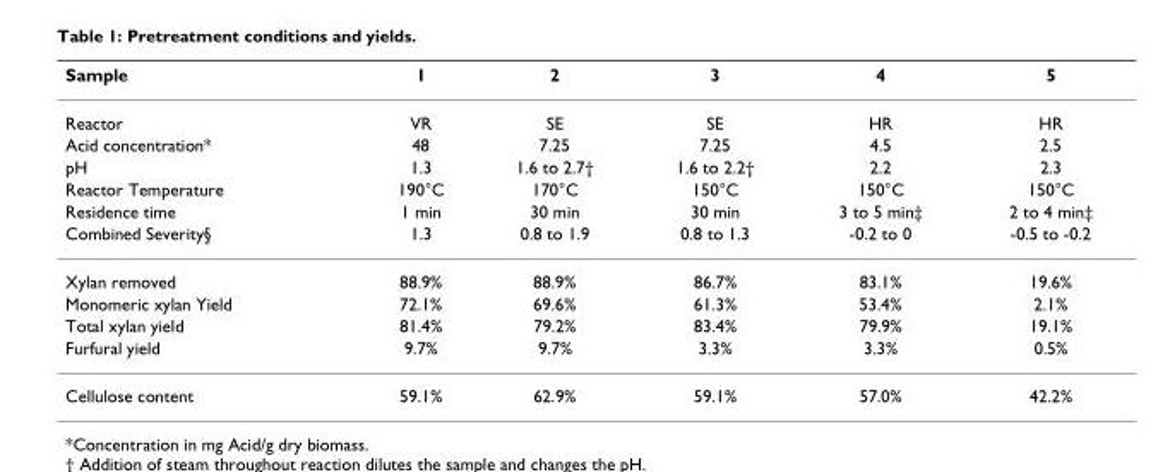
<table><thead><tr><td>Sample</td><td>1</td><td>2</td><td>3</td><td>4</td><td>5</td></tr></thead><tbody><tr><td>Reactor</td><td>VR</td><td>SE</td><td>SE</td><td>HR</td><td>HR</td></tr><tr><td>Acid concentration*</td><td>48</td><td>7.25</td><td>7.25</td><td>4.5</td><td>2.5</td></tr><tr><td>pH</td><td>1.3</td><td>1.6 to 2.7†</td><td>1.6 to 2.2†</td><td>2.2</td><td>2.3</td></tr><tr><td>Reactor Temperature</td><td>190°C</td><td>170°C</td><td>150°C</td><td>150°C</td><td>150°C</td></tr><tr><td>Residence time</td><td>1 min</td><td>30 min</td><td>30 min</td><td>3 to 5 min‡</td><td>2 to 4 min‡</td></tr><tr><td>Combined Severity§</td><td>1.3</td><td>0.8 to 1.9</td><td>0.8 to 1.3</td><td>-0.2 to 0</td><td>-0.5 to -0.2</td></tr><tr><td>Xylan removed</td><td>88.9%</td><td>88.9%</td><td>86.7%</td><td>83.1%</td><td>19.6%</td></tr><tr><td>Monomeric xylan Yield</td><td>72.1%</td><td>69.6%</td><td>61.3%</td><td>53.4%</td><td>2.1%</td></tr><tr><td>Total xylan yield</td><td>81.4%</td><td>79.2%</td><td>83.4%</td><td>79.9%</td><td>19.1%</td></tr><tr><td>Furfural yield</td><td>9.7%</td><td>9.7%</td><td>3.3%</td><td>3.3%</td><td>0.5%</td></tr><tr><td>Cellulose content</td><td>59.1%</td><td>62.9%</td><td>59.1%</td><td>57.0%</td><td>42.2%</td></tr></tbody></table>